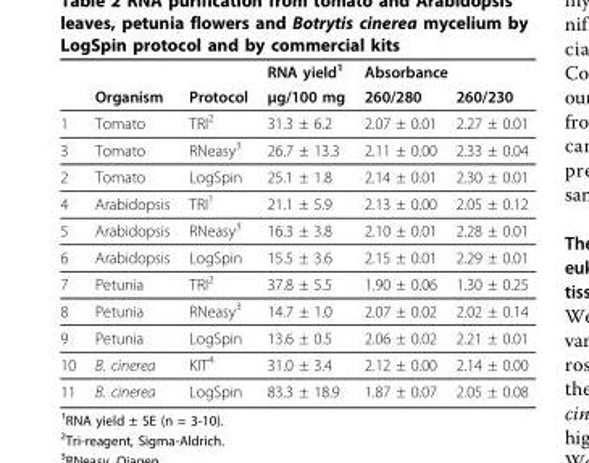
<table><thead><tr><td rowspan="2"></td><td rowspan="2">Organism</td><td rowspan="2">Protocol</td><td rowspan="2">RNA yield<sup>1</sup> μg/100 mg</td><td colspan="2">Absorbance</td></tr><tr><td>260/280</td><td>260/230</td></tr></thead><tbody><tr><td>1</td><td>Tomato</td><td>TRI<sup>2</sup></td><td>31.3 ± 6.2</td><td>2.07 ± 0.01</td><td>2.27 ± 0.01</td></tr><tr><td>3</td><td>Tomato</td><td>RNeasy<sup>3</sup></td><td>26.7 ± 13.3</td><td>2.11 ± 0.00</td><td>2.33 ± 0.04</td></tr><tr><td>2</td><td>Tomato</td><td>LogSpin</td><td>25.1 ± 1.8</td><td>2.14 ± 0.01</td><td>2.30 ± 0.01</td></tr><tr><td>4</td><td>Arabidopsis</td><td>TRI<sup>1</sup></td><td>21.1 ± 5.9</td><td>2.13 ± 0.00</td><td>2.05 ± 0.12</td></tr><tr><td>5</td><td>Arabidopsis</td><td>RNeasy<sup>3</sup></td><td>16.3 ± 3.8</td><td>2.10 ± 0.01</td><td>2.28 ± 0.01</td></tr><tr><td>6</td><td>Arabidopsis</td><td>LogSpin</td><td>15.5 ± 3.6</td><td>2.15 ± 0.01</td><td>2.29 ± 0.01</td></tr><tr><td>7</td><td>Petunia</td><td>TRI<sup>2</sup></td><td>37.8 ± 5.5</td><td>1.90 ± 0.06</td><td>1.30 ± 0.25</td></tr><tr><td>8</td><td>Petunia</td><td>RNeasy<sup>3</sup></td><td>14.7 ± 1.0</td><td>2.07 ± 0.02</td><td>2.02 ± 0.14</td></tr><tr><td>9</td><td>Petunia</td><td>LogSpin</td><td>13.6 ± 0.5</td><td>2.06 ± 0.02</td><td>2.21 ± 0.01</td></tr><tr><td>10</td><td>B. cinerea</td><td>KIT<sup>4</sup></td><td>31.0 ± 3.4</td><td>2.12 ± 0.00</td><td>2.14 ± 0.00</td></tr><tr><td>11</td><td>B. cinerea</td><td>LogSpin</td><td>83.3 ± 18.9</td><td>1.87 ± 0.07</td><td>2.05 ± 0.08</td></tr></tbody></table>